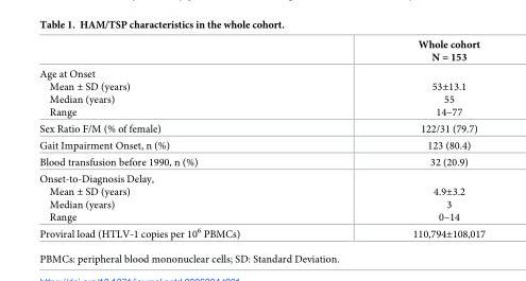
<table><thead><tr><td></td><td>Whole cohort N = 153</td></tr></thead><tbody><tr><td>Age at Onset Mean ± SD (years) Median (years) Range</td><td>53±13.1 55 14–77</td></tr><tr><td>Sex Ratio F/M (% of female)</td><td>122/31 (79.7)</td></tr><tr><td>Gait Impairment Onset, n (%)</td><td>123 (80.4)</td></tr><tr><td>Blood transfusion before 1990, n (%)</td><td>32 (20.9)</td></tr><tr><td>Onset-to-Diagnosis Delay, Mean ± SD (years) Median (years) Range</td><td>4.9±3.2 3 0–14</td></tr><tr><td>Proviral load (HTLV-1 copies per 10<sup>6</sup> PBMCs)</td><td>110,794±108,017</td></tr></tbody></table>